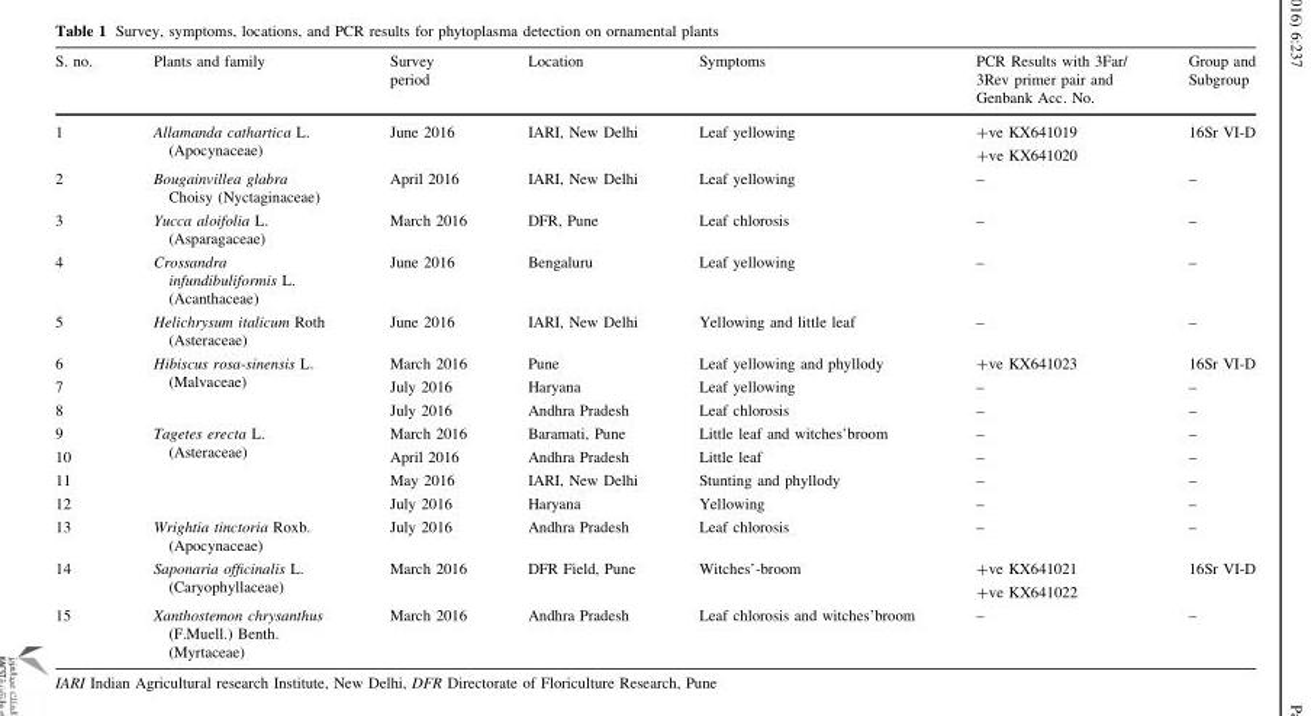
<table><thead><tr><td>S. no.</td><td>Plants and family</td><td>Survey period</td><td>Location</td><td>Symptoms</td><td>PCR Results with 3Far/ 3Rev primer pair and Genbank Acc. No.</td><td>Group and Subgroup</td></tr></thead><tbody><tr><td>1</td><td>Allamanda cathartica L. (Apocynaceae)</td><td>June 2016</td><td>IARI, New Delhi</td><td>Leaf yellowing</td><td>+ve KX641019 +ve KX641020</td><td>16Sr VI-D</td></tr><tr><td>2</td><td>Bougainvillea glabra Choisy (Nyctaginaceae)</td><td>April 2016</td><td>IARI, New Delhi</td><td>Leaf yellowing</td><td>–</td><td>–</td></tr><tr><td>3</td><td>Yucca aloifolia L. (Asparagaceae)</td><td>March 2016</td><td>DFR, Pune</td><td>Leaf chlorosis</td><td>–</td><td>–</td></tr><tr><td>4</td><td>Crossandra infundibuliformis L. (Acanthaceae)</td><td>June 2016</td><td>Bengaluru</td><td>Leaf yellowing</td><td>–</td><td>–</td></tr><tr><td>5</td><td>Helichrysum italicum Roth (Asteraceae)</td><td>June 2016</td><td>IARI, New Delhi</td><td>Yellowing and little leaf</td><td>–</td><td>–</td></tr><tr><td>6</td><td rowspan="3">Hibiscus rosa-sinensis L. (Malvaceae)</td><td>March 2016</td><td>Pune</td><td>Leaf yellowing and phyllody</td><td>+ve KX641023</td><td>16Sr VI-D</td></tr><tr><td>7</td><td>July 2016</td><td>Haryana</td><td>Leaf yellowing</td><td>–</td><td>–</td></tr><tr><td>8</td><td>July 2016</td><td>Andhra Pradesh</td><td>Leaf chlorosis</td><td>–</td><td>–</td></tr><tr><td>9</td><td rowspan="4">Tagetes erecta L. (Asteraceae)</td><td>March 2016</td><td>Baramati, Pune</td><td>Little leaf and witches’broom</td><td>–</td><td>–</td></tr><tr><td>10</td><td>April 2016</td><td>Andhra Pradesh</td><td>Little leaf</td><td>–</td><td>–</td></tr><tr><td>11</td><td>May 2016</td><td>IARI, New Delhi</td><td>Stunting and phyllody</td><td>–</td><td>–</td></tr><tr><td>12</td><td>July 2016</td><td>Haryana</td><td>Yellowing</td><td>–</td><td>–</td></tr><tr><td>13</td><td>Wrightia tinctoria Roxb. (Apocynaceae)</td><td>July 2016</td><td>Andhra Pradesh</td><td>Leaf chlorosis</td><td>–</td><td>–</td></tr><tr><td>14</td><td>Saponaria officinalis L. (Caryophyllaceae)</td><td>March 2016</td><td>DFR Field, Pune</td><td>Witches’-broom</td><td>+ve KX641021 +ve KX641022</td><td>16Sr VI-D</td></tr><tr><td>15</td><td>Xanthostemon chrysanthus (F.Muell.) Benth. (Myrtaceae)</td><td>March 2016</td><td>Andhra Pradesh</td><td>Leaf chlorosis and witches’broom</td><td>–</td><td>–</td></tr></tbody></table>